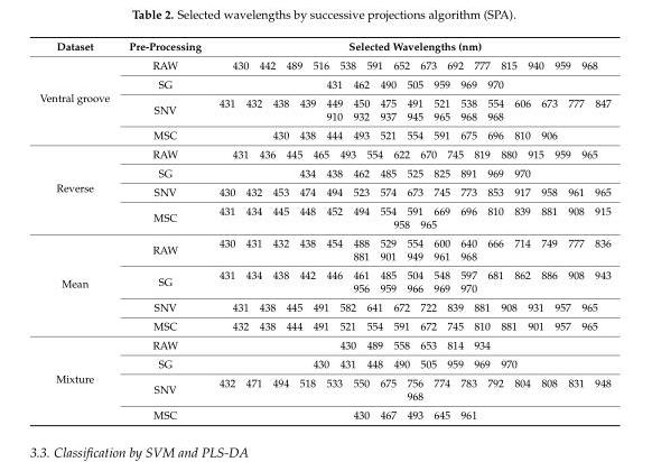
<table><thead><tr><td>Dataset</td><td>Pre-Processing</td><td>Selected Wavelengths (nm)</td></tr></thead><tbody><tr><td rowspan="4">Ventral groove</td><td>RAW</td><td>430 442 489 516 538 591 652 673 692 777 815 940 959 968</td></tr><tr><td>SG</td><td>431 462 490 505 959 969 970</td></tr><tr><td>SNV</td><td>431 432 438 439 449 450 475 491 521 538 554 606 673 777 847 910 932 937 945 965 968 968</td></tr><tr><td>MSC</td><td>430 438 444 493 521 554 591 675 696 810 906</td></tr><tr><td rowspan="4">Reverse</td><td>RAW</td><td>431 436 445 465 493 554 622 670 745 819 880 915 959 965</td></tr><tr><td>SG</td><td>434 438 462 485 525 825 891 969 970</td></tr><tr><td>SNV</td><td>430 432 453 474 494 523 574 673 745 773 853 917 958 961 965</td></tr><tr><td>MSC</td><td>431 434 445 448 452 494 554 591 669 696 810 839 881 908 915 958 965</td></tr><tr><td rowspan="4">Mean</td><td>RAW</td><td>430 431 432 438 454 488 529 554 600 640 666 714 749 777 836 881 901 949 961 968</td></tr><tr><td>SG</td><td>431 434 438 442 446 461 485 504 548 597 681 862 886 908 943 956 959 966 969 970</td></tr><tr><td>SNV</td><td>431 438 445 491 582 641 672 722 839 881 908 931 957 965</td></tr><tr><td>MSC</td><td>432 438 444 491 521 554 591 672 745 810 881 901 957 965</td></tr><tr><td rowspan="4">Mixture</td><td>RAW</td><td>430 489 558 653 814 934</td></tr><tr><td>SG</td><td>430 431 448 490 505 959 969 970</td></tr><tr><td>SNV</td><td>432 471 494 518 533 550 675 756 774 783 792 804 808 831 948 968</td></tr><tr><td>MSC</td><td>430 467 493 645 961</td></tr></tbody></table>